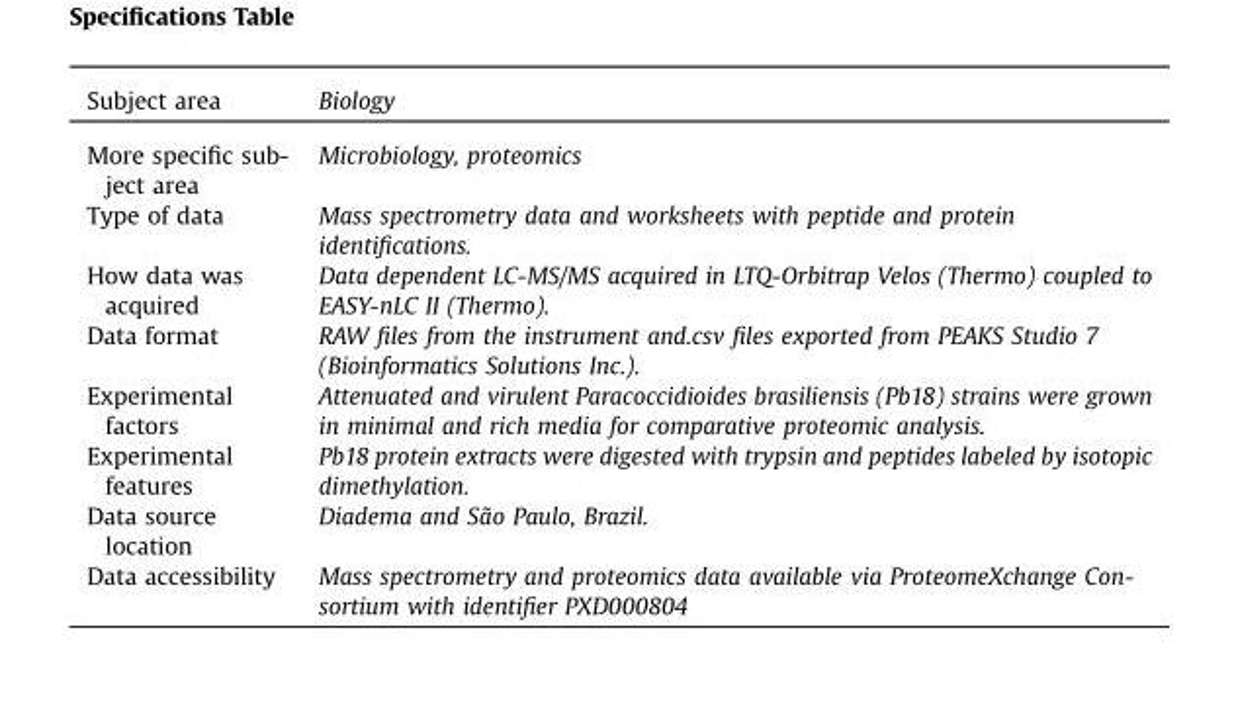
<table><thead><tr><td>Subject area</td><td>Biology</td></tr></thead><tbody><tr><td>More specific sub- ject area</td><td>Microbiology, proteomics</td></tr><tr><td>Type of data</td><td>Mass spectrometry data and worksheets with peptide and protein identifications.</td></tr><tr><td>How data was acquired</td><td>Data dependent LC-MS/MS acquired in LTQ-Orbitrap Velos (Thermo) coupled to EASY-nLC II (Thermo).</td></tr><tr><td>Data format</td><td>RAW files from the instrument and.csv files exported from PEAKS Studio 7 (Bioinformatics Solutions Inc.).</td></tr><tr><td>Experimental factors</td><td>Attenuated and virulent Paracoccidioides brasiliensis (Pb18) strains were grown in minimal and rich media for comparative proteomic analysis.</td></tr><tr><td>Experimental features</td><td>Pb18 protein extracts were digested with trypsin and peptides labeled by isotopic dimethylation.</td></tr><tr><td>Data source location</td><td>Diadema and São Paulo, Brazil.</td></tr><tr><td>Data accessibility</td><td>Mass spectrometry and proteomics data available via ProteomeXchange Con- sortium with identifier PXD000804</td></tr></tbody></table>